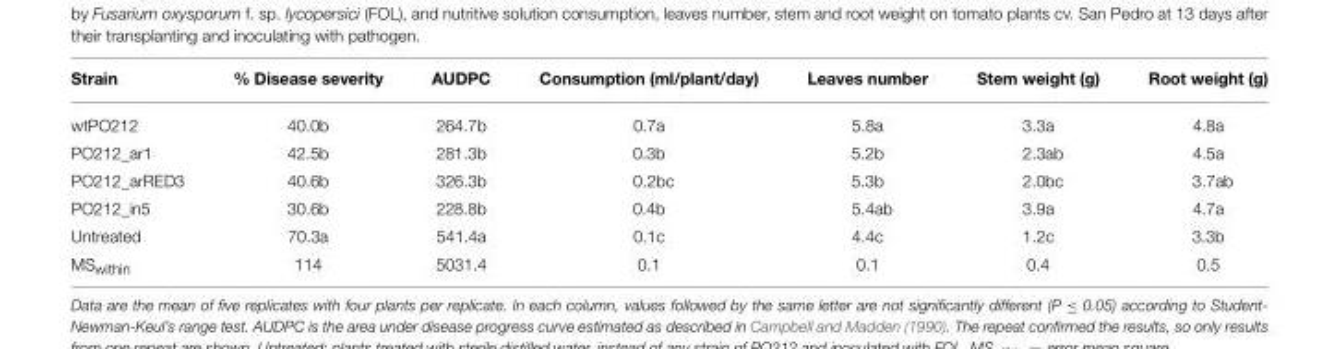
<table><thead><tr><td>Strain</td><td>% Disease severity</td><td>AUDPC</td><td>Consumption (ml/plant/day)</td><td>Leaves number</td><td>Stem weight (g)</td><td>Root weight (g)</td></tr></thead><tbody><tr><td>wtPO212</td><td>40.0b</td><td>264.7b</td><td>0.7a</td><td>5.8a</td><td>3.3a</td><td>4.8a</td></tr><tr><td>PO212_ar1</td><td>42.5b</td><td>281.3b</td><td>0.3b</td><td>5.2b</td><td>2.3ab</td><td>4.5a</td></tr><tr><td>PO212_arRED3</td><td>40.6b</td><td>326.3b</td><td>0.2bc</td><td>5.3b</td><td>2.0bc</td><td>3.7ab</td></tr><tr><td>PO212_in5</td><td>30.6b</td><td>228.8b</td><td>0.4b</td><td>5.4ab</td><td>3.9a</td><td>4.7a</td></tr><tr><td>Untreated</td><td>70.3a</td><td>541.4a</td><td>0.1c</td><td>4.4c</td><td>1.2c</td><td>3.3b</td></tr><tr><td>MS<sub>within</sub></td><td>114</td><td>5031.4</td><td>0.1</td><td>0.1</td><td>0.4</td><td>0.5</td></tr></tbody></table>